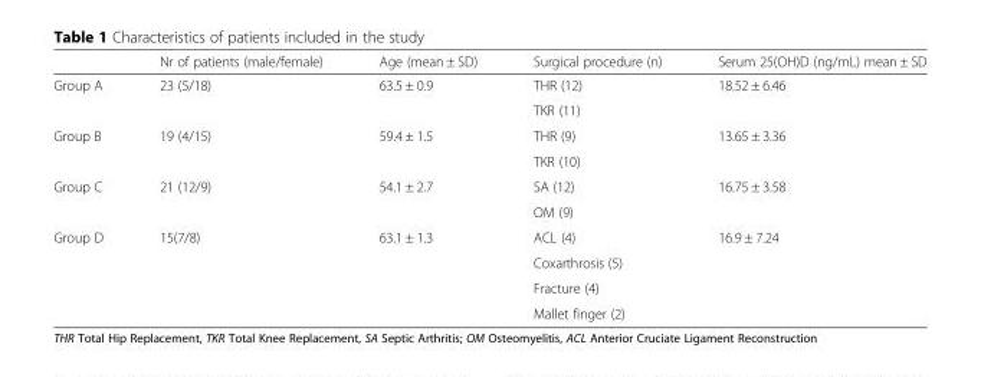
<table><thead><tr><td></td><td>Nr of patients (male/female)</td><td>Age (mean ± SD)</td><td>Surgical procedure (n)</td><td>Serum 25(OH)D (ng/mL) mean ± SD</td></tr></thead><tbody><tr><td rowspan="2">Group A</td><td rowspan="2">23 (5/18)</td><td rowspan="2">63.5 ± 0.9</td><td>THR (12)</td><td rowspan="2">18.52 ± 6.46</td></tr><tr><td>TKR (11)</td></tr><tr><td rowspan="2">Group B</td><td rowspan="2">19 (4/15)</td><td rowspan="2">59.4 ± 1.5</td><td>THR (9)</td><td rowspan="2">13.65 ± 3.36</td></tr><tr><td>TKR (10)</td></tr><tr><td rowspan="2">Group C</td><td rowspan="2">21 (12/9)</td><td rowspan="2">54.1 ± 2.7</td><td>SA (12)</td><td rowspan="2">16.75 ± 3.58</td></tr><tr><td>OM (9)</td></tr><tr><td rowspan="4">Group D</td><td rowspan="4">15(7/8)</td><td rowspan="4">63.1 ± 1.3</td><td>ACL (4)</td><td rowspan="4">16.9 ± 7.24</td></tr><tr><td>Coxarthrosis (5)</td></tr><tr><td>Fracture (4)</td></tr><tr><td>Mallet finger (2)</td></tr></tbody></table>